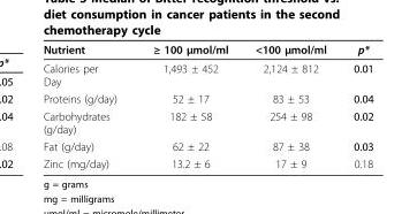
<table><thead><tr><td>Nutrient</td><td>≥ 100 μmol/ml</td><td>&lt;100 μmol/ml</td><td>p*</td></tr></thead><tbody><tr><td>Calories per Day</td><td>1,493 ± 452</td><td>2,124 ± 812</td><td>0.01</td></tr><tr><td>Proteins (g/day)</td><td>52 ± 17</td><td>83 ± 53</td><td>0.04</td></tr><tr><td>Carbohydrates (g/day)</td><td>182 ± 58</td><td>254 ± 98</td><td>0.02</td></tr><tr><td>Fat (g/day)</td><td>62 ± 22</td><td>87 ± 38</td><td>0.03</td></tr><tr><td>Zinc (mg/day)</td><td>13.2 ± 6</td><td>17 ± 9</td><td>0.18</td></tr></tbody></table>